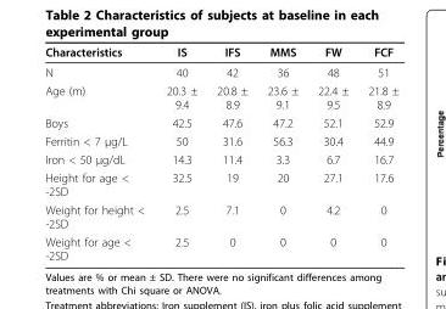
<table><thead><tr><td>Characteristics</td><td>IS</td><td>IFS</td><td>MMS</td><td>FW</td><td>FCF</td></tr></thead><tbody><tr><td>N</td><td>40</td><td>42</td><td>36</td><td>48</td><td>51</td></tr><tr><td>Age (m)</td><td>20.3 ± 9.4</td><td>20.8 ± 8.9</td><td>23.6 ± 9.1</td><td>22.4 ± 9.5</td><td>21.8 ± 8.9</td></tr><tr><td>Boys</td><td>42.5</td><td>47.6</td><td>47.2</td><td>52.1</td><td>52.9</td></tr><tr><td>Ferritin &lt; 7 μg/L</td><td>50</td><td>31.6</td><td>56.3</td><td>30.4</td><td>44.9</td></tr><tr><td>Iron &lt; 50 μg/dL</td><td>14.3</td><td>11.4</td><td>3.3</td><td>6.7</td><td>16.7</td></tr><tr><td>Height for age &lt; -2SD</td><td>32.5</td><td>19</td><td>20</td><td>27.1</td><td>17.6</td></tr><tr><td>Weight for height &lt; -2SD</td><td>2.5</td><td>7.1</td><td>0</td><td>4.2</td><td>0</td></tr><tr><td>Weight for age &lt; -2SD</td><td>2.5</td><td>0</td><td>0</td><td>0</td><td>0</td></tr></tbody></table>